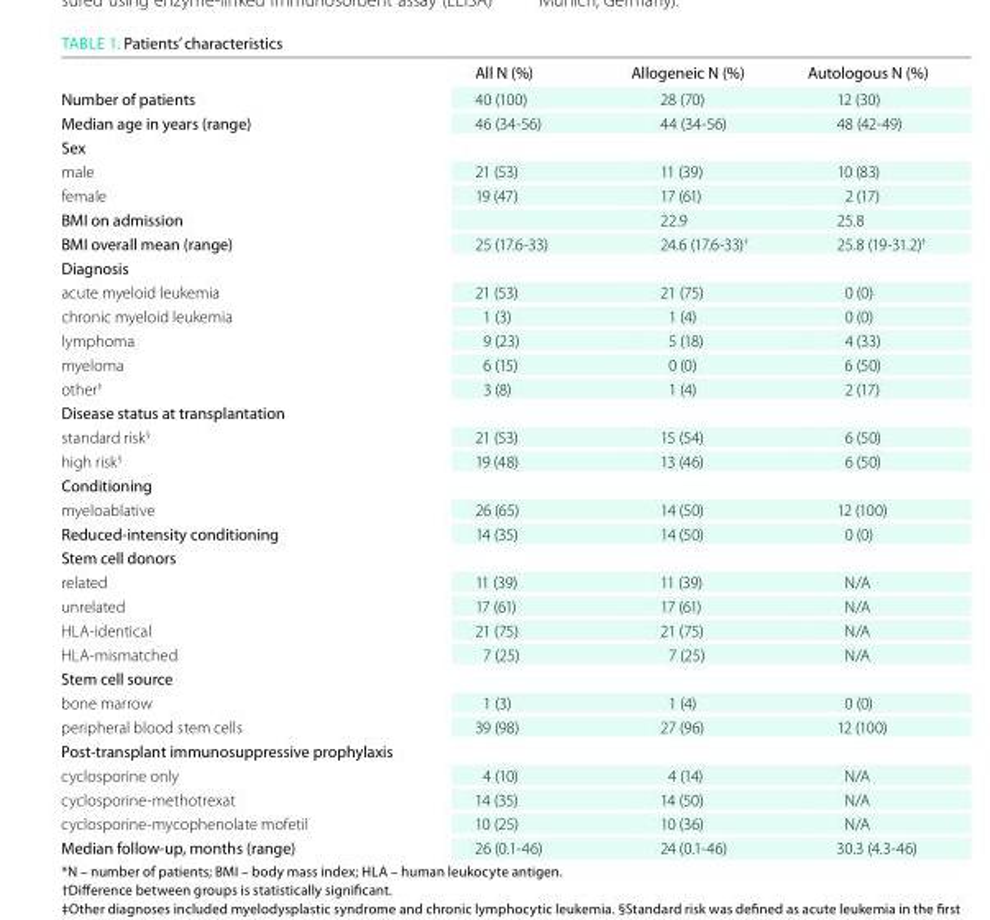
<table><thead><tr><td></td><td>All n (%)</td><td>Allogeneic n (%)</td><td>Autologous n (%)</td></tr></thead><tbody><tr><td>number of patients</td><td>40 (100)</td><td>28 (70)</td><td>12 (30)</td></tr><tr><td>median age in years (range)</td><td>46 (34-56)</td><td>44 (34-56)</td><td>48 (42-49)</td></tr><tr><td colspan="4">sex</td></tr><tr><td>male</td><td>21 (53)</td><td>11 (39)</td><td>10 (83)</td></tr><tr><td>female</td><td>19 (47)</td><td>17 (61)</td><td>2 (17)</td></tr><tr><td>bmi on admission</td><td></td><td>22.9</td><td>25.8</td></tr><tr><td>bmi overall mean (range)</td><td>25 (17.6-33)</td><td>24.6 (17.6-33)<sup>†</sup></td><td>25.8 (19-31.2)<sup>†</sup></td></tr><tr><td colspan="4">diagnosis</td></tr><tr><td>acute myeloid leukemia</td><td>21 (53)</td><td>21 (75)</td><td>0 (0)</td></tr><tr><td>chronic myeloid leukemia</td><td>1 (3)</td><td>1 (4)</td><td>0 (0)</td></tr><tr><td>lymphoma</td><td>9 (23)</td><td>5 (18)</td><td>4 (33)</td></tr><tr><td>myeloma</td><td>6 (15)</td><td>0 (0)</td><td>6 (50)</td></tr><tr><td>other<sup>‡</sup></td><td>3 (8)</td><td>1 (4)</td><td>2 (17)</td></tr><tr><td colspan="4">disease status at transplantation</td></tr><tr><td>standard risk<sup>§</sup></td><td>21 (53)</td><td>15 (54)</td><td>6 (50)</td></tr><tr><td>high risk<sup>§</sup></td><td>19 (48)</td><td>13 (46)</td><td>6 (50)</td></tr><tr><td colspan="4">Conditioning</td></tr><tr><td>myeloablative</td><td>26 (65)</td><td>14 (50)</td><td>12 (100)</td></tr><tr><td>Reduced-intensity conditioning</td><td>14 (35)</td><td>14 (50)</td><td>0 (0)</td></tr><tr><td colspan="4">stem cell donors</td></tr><tr><td>related</td><td>11 (39)</td><td>11 (39)</td><td>N/A</td></tr><tr><td>unrelated</td><td>17 (61)</td><td>17 (61)</td><td>N/A</td></tr><tr><td>HLA-identical</td><td>21 (75)</td><td>21 (75)</td><td>N/A</td></tr><tr><td>HLA-mismatched</td><td>7 (25)</td><td>7 (25)</td><td>N/A</td></tr><tr><td colspan="4">stem cell source</td></tr><tr><td>bone marrow</td><td>1 (3)</td><td>1 (4)</td><td>0 (0)</td></tr><tr><td>peripheral blood stem cells</td><td>39 (98)</td><td>27 (96)</td><td>12 (100)</td></tr><tr><td colspan="4">Post-transplant immunosuppressive prophylaxis</td></tr><tr><td>cyclosporine only</td><td>4 (10)</td><td>4 (14)</td><td>N/A</td></tr><tr><td>cyclosporine-methotrexat</td><td>14 (35)</td><td>14 (50)</td><td>N/A</td></tr><tr><td>cyclosporine-mycophenolate mofetil</td><td>10 (25)</td><td>10 (36)</td><td>N/A</td></tr><tr><td>median follow-up, months (range)</td><td>26 (0.1-46)</td><td>24 (0.1-46)</td><td>30.3 (4.3-46)</td></tr></tbody></table>